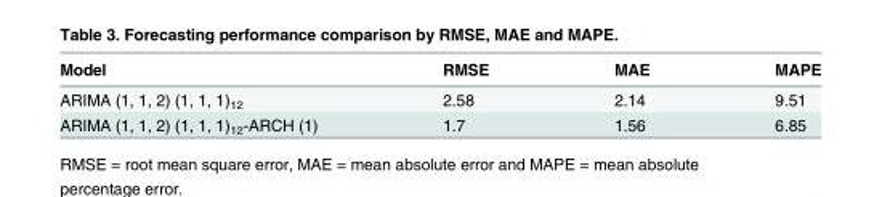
<table><thead><tr><td>Model</td><td>RMSE</td><td>MAE</td><td>MAPE</td></tr></thead><tbody><tr><td>ARIMA (1, 1, 2) (1, 1, 1)<sub>12</sub></td><td>2.58</td><td>2.14</td><td>9.51</td></tr><tr><td>ARIMA (1, 1, 2) (1, 1, 1)<sub>12</sub>-ARCH (1)</td><td>1.7</td><td>1.56</td><td>6.85</td></tr></tbody></table>